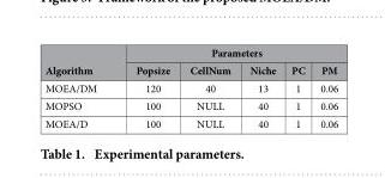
<table><thead><tr><td rowspan="2">Algorithm</td><td colspan="5">Parameters</td></tr><tr><td>Popsize</td><td>CellNum</td><td>Niche</td><td>PC</td><td>PM</td></tr></thead><tbody><tr><td>MOEA/DM</td><td>120</td><td>40</td><td>13</td><td>1</td><td>0.06</td></tr><tr><td>MOPSO</td><td>100</td><td>NULL</td><td>40</td><td>1</td><td>0.06</td></tr><tr><td>MOEA/D</td><td>100</td><td>NULL</td><td>40</td><td>1</td><td>0.06</td></tr></tbody></table>